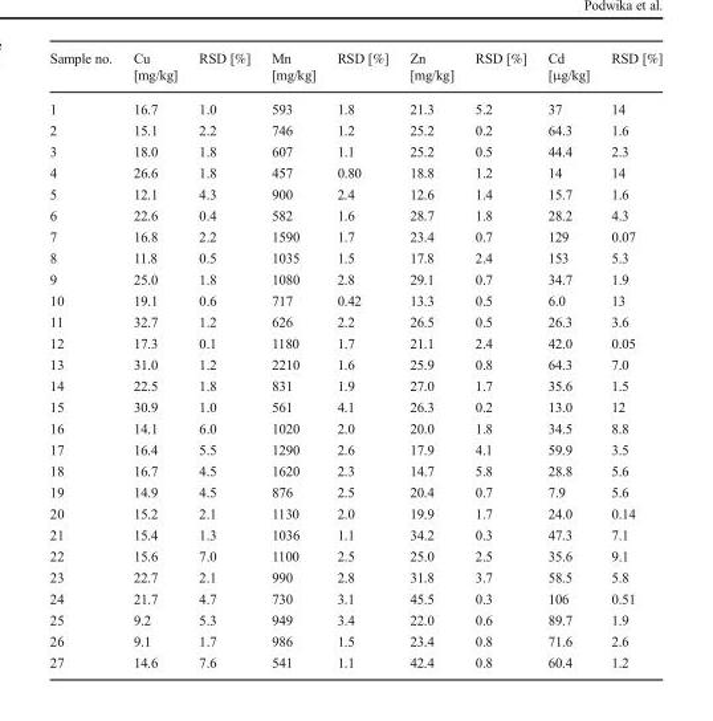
<table><thead><tr><td>Sample no.</td><td>Cu [mg/kg]</td><td>RSD [%]</td><td>Mn [mg/kg]</td><td>RSD [%]</td><td>Zn [mg/kg]</td><td>RSD [%]</td><td>Cd [μg/kg]</td><td>RSD [%]</td></tr></thead><tbody><tr><td>1</td><td>16.7</td><td>1.0</td><td>593</td><td>1.8</td><td>21.3</td><td>5.2</td><td>37</td><td>14</td></tr><tr><td>2</td><td>15.1</td><td>2.2</td><td>746</td><td>1.2</td><td>25.2</td><td>0.2</td><td>64.3</td><td>1.6</td></tr><tr><td>3</td><td>18.0</td><td>1.8</td><td>607</td><td>1.1</td><td>25.2</td><td>0.5</td><td>44.4</td><td>2.3</td></tr><tr><td>4</td><td>26.6</td><td>1.8</td><td>457</td><td>0.80</td><td>18.8</td><td>1.2</td><td>14</td><td>14</td></tr><tr><td>5</td><td>12.1</td><td>4.3</td><td>900</td><td>2.4</td><td>12.6</td><td>1.4</td><td>15.7</td><td>1.6</td></tr><tr><td>6</td><td>22.6</td><td>0.4</td><td>582</td><td>1.6</td><td>28.7</td><td>1.8</td><td>28.2</td><td>4.3</td></tr><tr><td>7</td><td>16.8</td><td>2.2</td><td>1590</td><td>1.7</td><td>23.4</td><td>0.7</td><td>129</td><td>0.07</td></tr><tr><td>8</td><td>11.8</td><td>0.5</td><td>1035</td><td>1.5</td><td>17.8</td><td>2.4</td><td>153</td><td>5.3</td></tr><tr><td>9</td><td>25.0</td><td>1.8</td><td>1080</td><td>2.8</td><td>29.1</td><td>0.7</td><td>34.7</td><td>1.9</td></tr><tr><td>10</td><td>19.1</td><td>0.6</td><td>717</td><td>0.42</td><td>13.3</td><td>0.5</td><td>6.0</td><td>13</td></tr><tr><td>11</td><td>32.7</td><td>1.2</td><td>626</td><td>2.2</td><td>26.5</td><td>0.5</td><td>26.3</td><td>3.6</td></tr><tr><td>12</td><td>17.3</td><td>0.1</td><td>1180</td><td>1.7</td><td>21.1</td><td>2.4</td><td>42.0</td><td>0.05</td></tr><tr><td>13</td><td>31.0</td><td>1.2</td><td>2210</td><td>1.6</td><td>25.9</td><td>0.8</td><td>64.3</td><td>7.0</td></tr><tr><td>14</td><td>22.5</td><td>1.8</td><td>831</td><td>1.9</td><td>27.0</td><td>1.7</td><td>35.6</td><td>1.5</td></tr><tr><td>15</td><td>30.9</td><td>1.0</td><td>561</td><td>4.1</td><td>26.3</td><td>0.2</td><td>13.0</td><td>12</td></tr><tr><td>16</td><td>14.1</td><td>6.0</td><td>1020</td><td>2.0</td><td>20.0</td><td>1.8</td><td>34.5</td><td>8.8</td></tr><tr><td>17</td><td>16.4</td><td>5.5</td><td>1290</td><td>2.6</td><td>17.9</td><td>4.1</td><td>59.9</td><td>3.5</td></tr><tr><td>18</td><td>16.7</td><td>4.5</td><td>1620</td><td>2.3</td><td>14.7</td><td>5.8</td><td>28.8</td><td>5.6</td></tr><tr><td>19</td><td>14.9</td><td>4.5</td><td>876</td><td>2.5</td><td>20.4</td><td>0.7</td><td>7.9</td><td>5.6</td></tr><tr><td>20</td><td>15.2</td><td>2.1</td><td>1130</td><td>2.0</td><td>19.9</td><td>1.7</td><td>24.0</td><td>0.14</td></tr><tr><td>21</td><td>15.4</td><td>1.3</td><td>1036</td><td>1.1</td><td>34.2</td><td>0.3</td><td>47.3</td><td>7.1</td></tr><tr><td>22</td><td>15.6</td><td>7.0</td><td>1100</td><td>2.5</td><td>25.0</td><td>2.5</td><td>35.6</td><td>9.1</td></tr><tr><td>23</td><td>22.7</td><td>2.1</td><td>990</td><td>2.8</td><td>31.8</td><td>3.7</td><td>58.5</td><td>5.8</td></tr><tr><td>24</td><td>21.7</td><td>4.7</td><td>730</td><td>3.1</td><td>45.5</td><td>0.3</td><td>106</td><td>0.51</td></tr><tr><td>25</td><td>9.2</td><td>5.3</td><td>949</td><td>3.4</td><td>22.0</td><td>0.6</td><td>89.7</td><td>1.9</td></tr><tr><td>26</td><td>9.1</td><td>1.7</td><td>986</td><td>1.5</td><td>23.4</td><td>0.8</td><td>71.6</td><td>2.6</td></tr><tr><td>27</td><td>14.6</td><td>7.6</td><td>541</td><td>1.1</td><td>42.4</td><td>0.8</td><td>60.4</td><td>1.2</td></tr></tbody></table>